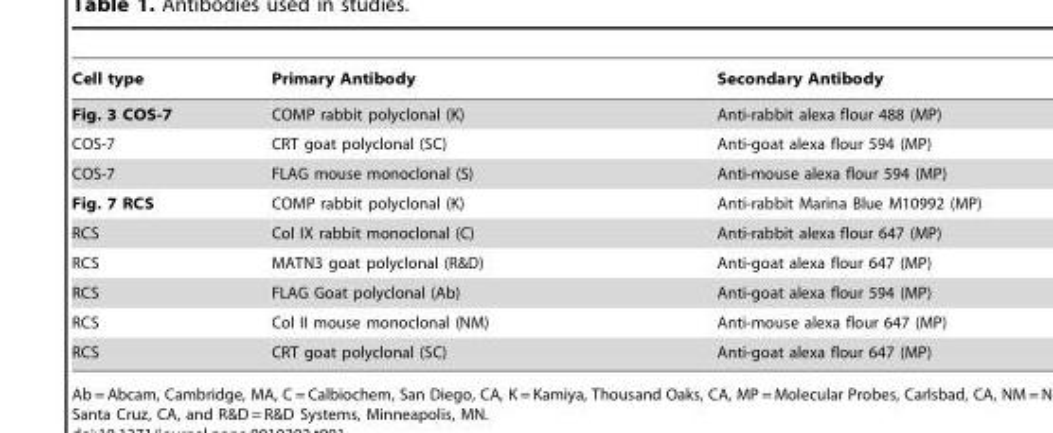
<table><thead><tr><td>Cell type</td><td>Primary Antibody</td><td>Secondary Antibody</td></tr></thead><tbody><tr><td>Fig. 3 COS-7</td><td>COMP rabbit polyclonal (K)</td><td>Anti-rabbit alexa flour 488 (MP)</td></tr><tr><td>COS-7</td><td>CRT goat polyclonal (SC)</td><td>Anti-goat alexa flour 594 (MP)</td></tr><tr><td>COS-7</td><td>FLAG mouse monoclonal (S)</td><td>Anti-mouse alexa flour 594 (MP)</td></tr><tr><td>Fig. 7 RCS</td><td>COMP rabbit polyclonal (K)</td><td>Anti-rabbit Marina Blue M10992 (MP)</td></tr><tr><td>RCS</td><td>Col IX rabbit monoclonal (C)</td><td>Anti-rabbit alexa flour 647 (MP)</td></tr><tr><td>RCS</td><td>MATN3 goat polyclonal (R&amp;D)</td><td>Anti-goat alexa flour 647 (MP)</td></tr><tr><td>RCS</td><td>FLAG Goat polyclonal (Ab)</td><td>Anti-goat alexa flour 594 (MP)</td></tr><tr><td>RCS</td><td>Col II mouse monoclonal (NM)</td><td>Anti-mouse alexa flour 647 (MP)</td></tr><tr><td>RCS</td><td>CRT goat polyclonal (SC)</td><td>Anti-goat alexa flour 647 (MP)</td></tr></tbody></table>